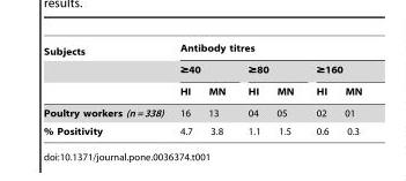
<table><thead><tr><td rowspan="3">Subjects</td><td colspan="3">Antibody titres</td></tr><tr><td rowspan="2">≥40 HI MN</td><td rowspan="2">≥80 HI MN</td><td rowspan="2">≥160 HI MN</td></tr><tr></tr></thead><tbody><tr><td>Poultry workers (n = 338)</td><td>16 13</td><td>04 05</td><td>02 01</td></tr><tr><td>% Positivity</td><td>4.7 3.8</td><td>1.1 1.5</td><td>0.6 0.3</td></tr></tbody></table>